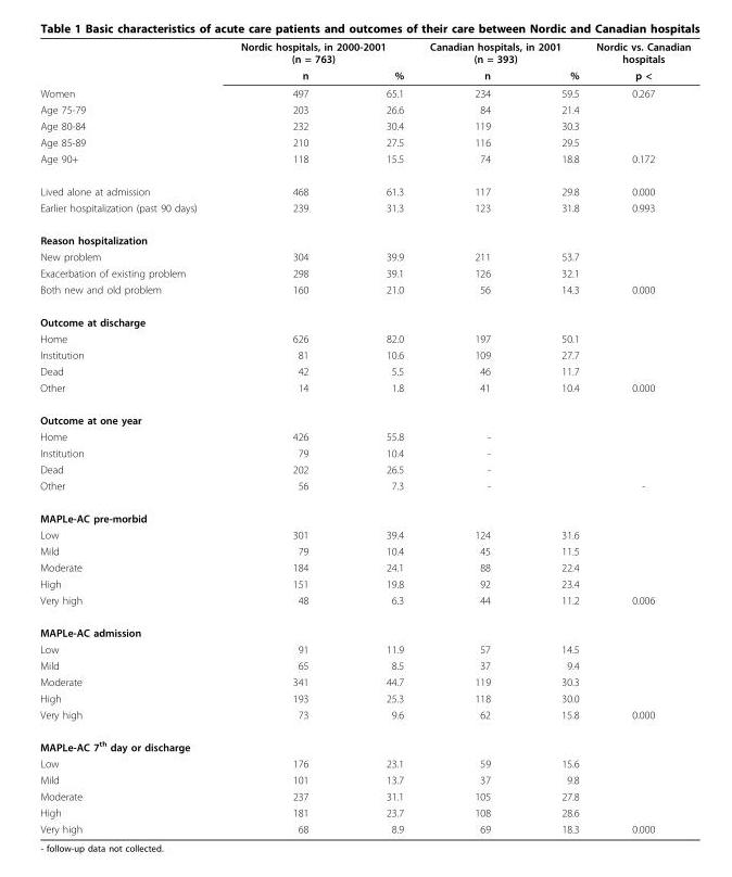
<table><thead><tr><td rowspan="2"></td><td colspan="2">Nordic hospitals, in 2000-2001 (n = 763)</td><td colspan="2">Canadian hospitals, in 2001 (n = 393)</td><td rowspan="2">Nordic vs. Canadian hospitals p &lt;</td></tr><tr><td>n</td><td>%</td><td>n</td><td>%</td></tr></thead><tbody><tr><td>Women</td><td>497</td><td>65.1</td><td>234</td><td>59.5</td><td>0.267</td></tr><tr><td>Age 75-79</td><td>203</td><td>26.6</td><td>84</td><td>21.4</td><td></td></tr><tr><td>Age 80-84</td><td>232</td><td>30.4</td><td>119</td><td>30.3</td><td></td></tr><tr><td>Age 85-89</td><td>210</td><td>27.5</td><td>116</td><td>29.5</td><td></td></tr><tr><td>Age 90+</td><td>118</td><td>15.5</td><td>74</td><td>18.8</td><td>0.172</td></tr><tr><td>Lived alone at admission</td><td>468</td><td>61.3</td><td>117</td><td>29.8</td><td>0.000</td></tr><tr><td>Earlier hospitalization (past 90 days)</td><td>239</td><td>31.3</td><td>123</td><td>31.8</td><td>0.993</td></tr><tr><td colspan="6">Reason hospitalization</td></tr><tr><td>New problem</td><td>304</td><td>39.9</td><td>211</td><td>53.7</td><td></td></tr><tr><td>Exacerbation of existing problem</td><td>298</td><td>39.1</td><td>126</td><td>32.1</td><td></td></tr><tr><td>Both new and old problem</td><td>160</td><td>21.0</td><td>56</td><td>14.3</td><td>0.000</td></tr><tr><td colspan="6">Outcome at discharge</td></tr><tr><td>Home</td><td>626</td><td>82.0</td><td>197</td><td>50.1</td><td></td></tr><tr><td>Institution</td><td>81</td><td>10.6</td><td>109</td><td>27.7</td><td></td></tr><tr><td>Dead</td><td>42</td><td>5.5</td><td>46</td><td>11.7</td><td></td></tr><tr><td>Other</td><td>14</td><td>1.8</td><td>41</td><td>10.4</td><td>0.000</td></tr><tr><td colspan="6">Outcome at one year</td></tr><tr><td>Home</td><td>426</td><td>55.8</td><td>-</td><td></td><td></td></tr><tr><td>Institution</td><td>79</td><td>10.4</td><td>-</td><td></td><td></td></tr><tr><td>Dead</td><td>202</td><td>26.5</td><td>-</td><td></td><td></td></tr><tr><td>Other</td><td>56</td><td>7.3</td><td>-</td><td></td><td>-</td></tr><tr><td colspan="6">MAPLe-AC pre-morbid</td></tr><tr><td>Low</td><td>301</td><td>39.4</td><td>124</td><td>31.6</td><td></td></tr><tr><td>Mild</td><td>79</td><td>10.4</td><td>45</td><td>11.5</td><td></td></tr><tr><td>Moderate</td><td>184</td><td>24.1</td><td>88</td><td>22.4</td><td></td></tr><tr><td>High</td><td>151</td><td>19.8</td><td>92</td><td>23.4</td><td></td></tr><tr><td>Very high</td><td>48</td><td>6.3</td><td>44</td><td>11.2</td><td>0.006</td></tr><tr><td colspan="6">MAPLe-AC admission</td></tr><tr><td>Low</td><td>91</td><td>11.9</td><td>57</td><td>14.5</td><td></td></tr><tr><td>Mild</td><td>65</td><td>8.5</td><td>37</td><td>9.4</td><td></td></tr><tr><td>Moderate</td><td>341</td><td>44.7</td><td>119</td><td>30.3</td><td></td></tr><tr><td>High</td><td>193</td><td>25.3</td><td>118</td><td>30.0</td><td></td></tr><tr><td>Very high</td><td>73</td><td>9.6</td><td>62</td><td>15.8</td><td>0.000</td></tr><tr><td colspan="6">MAPLe-AC 7<sup>th</sup> day or discharge</td></tr><tr><td>Low</td><td>176</td><td>23.1</td><td>59</td><td>15.6</td><td></td></tr><tr><td>Mild</td><td>101</td><td>13.7</td><td>37</td><td>9.8</td><td></td></tr><tr><td>Moderate</td><td>237</td><td>31.1</td><td>105</td><td>27.8</td><td></td></tr><tr><td>High</td><td>181</td><td>23.7</td><td>108</td><td>28.6</td><td></td></tr><tr><td>Very high</td><td>68</td><td>8.9</td><td>69</td><td>18.3</td><td>0.000</td></tr></tbody></table>